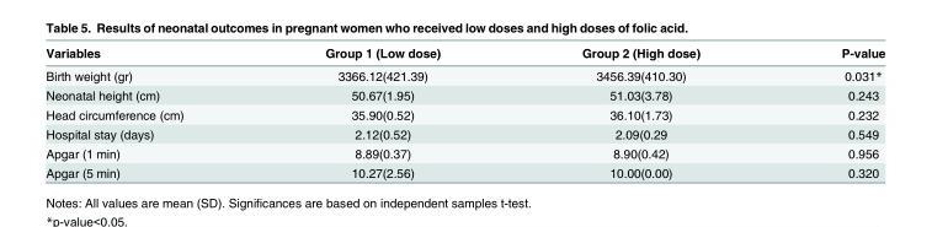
<table><thead><tr><td>Variables</td><td>Group 1 (Low dose)</td><td>Group 2 (High dose)</td><td>P-value</td></tr></thead><tbody><tr><td>Birth weight (gr)</td><td>3366.12(421.39)</td><td>3456.39(410.30)</td><td>0.031*</td></tr><tr><td>Neonatal height (cm)</td><td>50.67(1.95)</td><td>51.03(3.78)</td><td>0.243</td></tr><tr><td>Head circumference (cm)</td><td>35.90(0.52)</td><td>36.10(1.73)</td><td>0.232</td></tr><tr><td>Hospital stay (days)</td><td>2.12(0.52)</td><td>2.09(0.29</td><td>0.549</td></tr><tr><td>Apgar (1 min)</td><td>8.89(0.37)</td><td>8.90(0.42)</td><td>0.956</td></tr><tr><td>Apgar (5 min)</td><td>10.27(2.56)</td><td>10.00(0.00)</td><td>0.320</td></tr></tbody></table>